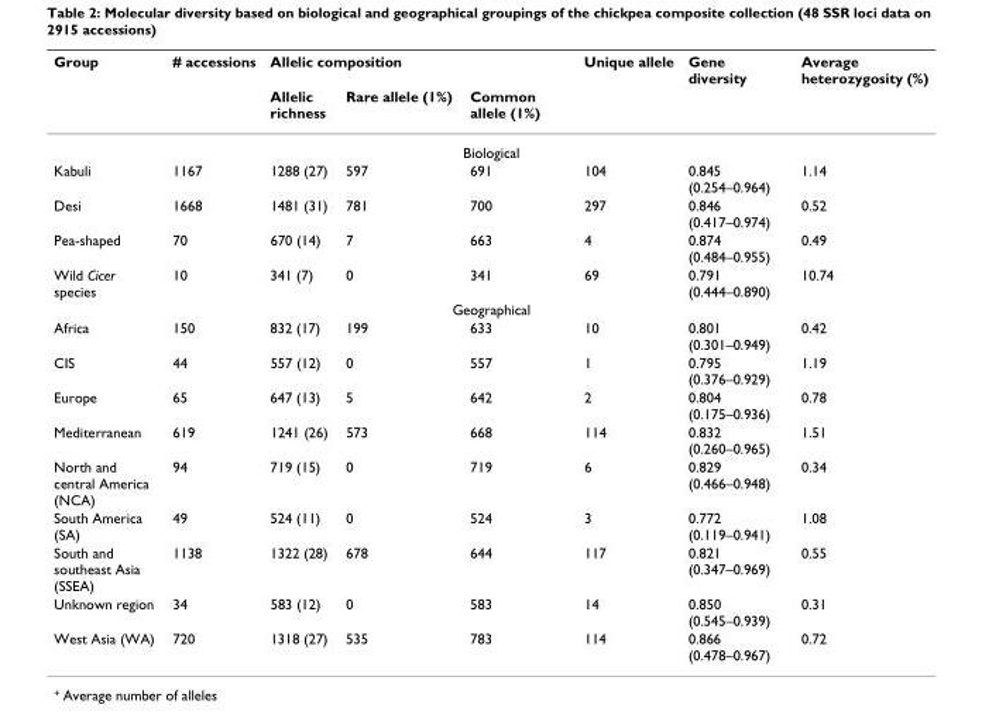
<table><thead><tr><td rowspan="2">Group</td><td rowspan="2"># accessions</td><td colspan="3">Allelic composition</td><td rowspan="2">Unique allele</td><td rowspan="2">Gene diversity</td><td rowspan="2">Average heterozygosity (%)</td></tr><tr><td>Allelic richness</td><td>Rare allele (1%)</td><td>Common allele (1%)</td></tr></thead><tbody><tr><td colspan="8">Biological</td></tr><tr><td>Kabuli</td><td>1167</td><td>1288 (27)</td><td>597</td><td>691</td><td>104</td><td>0.845 (0.254–0.964)</td><td>1.14</td></tr><tr><td>Desi</td><td>1668</td><td>1481 (31)</td><td>781</td><td>700</td><td>297</td><td>0.846 (0.417–0.974)</td><td>0.52</td></tr><tr><td>Pea-shaped</td><td>70</td><td>670 (14)</td><td>7</td><td>663</td><td>4</td><td>0.874 (0.484–0.955)</td><td>0.49</td></tr><tr><td>Wild Cicer species</td><td>10</td><td>341 (7)</td><td>0</td><td>341</td><td>69</td><td>0.791 (0.444–0.890)</td><td>10.74</td></tr><tr><td colspan="8">Geographical</td></tr><tr><td>Africa</td><td>150</td><td>832 (17)</td><td>199</td><td>633</td><td>10</td><td>0.801 (0.301–0.949)</td><td>0.42</td></tr><tr><td>CIS</td><td>44</td><td>557 (12)</td><td>0</td><td>557</td><td>1</td><td>0.795 (0.376–0.929)</td><td>1.19</td></tr><tr><td>Europe</td><td>65</td><td>647 (13)</td><td>5</td><td>642</td><td>2</td><td>0.804 (0.175–0.936)</td><td>0.78</td></tr><tr><td>Mediterranean</td><td>619</td><td>1241 (26)</td><td>573</td><td>668</td><td>114</td><td>0.832 (0.260–0.965)</td><td>1.51</td></tr><tr><td>North and central America (NCA)</td><td>94</td><td>719 (15)</td><td>0</td><td>719</td><td>6</td><td>0.829 (0.466–0.948)</td><td>0.34</td></tr><tr><td>South America (SA)</td><td>49</td><td>524 (11)</td><td>0</td><td>524</td><td>3</td><td>0.772 (0.119–0.941)</td><td>1.08</td></tr><tr><td>South and southeast Asia (SSEA)</td><td>1138</td><td>1322 (28)</td><td>678</td><td>644</td><td>117</td><td>0.821 (0.347–0.969)</td><td>0.55</td></tr><tr><td>Unknown region</td><td>34</td><td>583 (12)</td><td>0</td><td>583</td><td>14</td><td>0.850 (0.545–0.939)</td><td>0.31</td></tr><tr><td>West Asia (WA)</td><td>720</td><td>1318 (27)</td><td>535</td><td>783</td><td>114</td><td>0.866 (0.478–0.967)</td><td>0.72</td></tr></tbody></table>